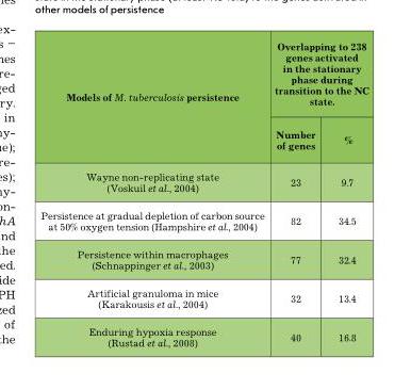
<table><thead><tr><td rowspan="2">Models of M. tuberculosis persistence</td><td colspan="2">Overlapping to 238 genes activated in the stationary phase during transition to the NC state.</td></tr><tr><td>Number of genes</td><td>%</td></tr></thead><tbody><tr><td>Wayne non-replicating state (Voskuil et al., 2004)</td><td>23</td><td>9.7</td></tr><tr><td>Persistence at gradual depletion of carbon source at 50% oxygen tension (Hampshire et al., 2004)</td><td>82</td><td>34.5</td></tr><tr><td>Persistence within macrophages (Schnappinger et al., 2003)</td><td>77</td><td>32.4</td></tr><tr><td>Artificial granuloma in mice (Karakousis et al., 2004)</td><td>32</td><td>13.4</td></tr><tr><td>enduring hypoxia response (rustad et al., 2008)</td><td>40</td><td>16.8</td></tr></tbody></table>